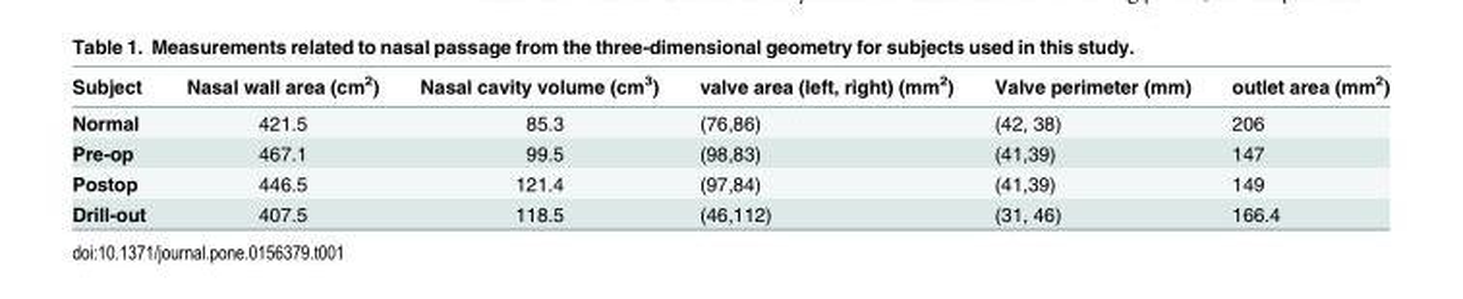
<table><thead><tr><td>Subject</td><td>Nasal wall area (cm<sup>2</sup>)</td><td>Nasal cavity volume (cm<sup>3</sup>)</td><td>valve area (left, right) (mm<sup>2</sup>)</td><td>Valve perimeter (mm)</td><td>outlet area (mm<sup>2</sup>)</td></tr></thead><tbody><tr><td>Normal</td><td>421.5</td><td>85.3</td><td>(76,86)</td><td>(42, 38)</td><td>206</td></tr><tr><td>Pre-op</td><td>467.1</td><td>99.5</td><td>(98,83)</td><td>(41,39)</td><td>147</td></tr><tr><td>Postop</td><td>446.5</td><td>121.4</td><td>(97,84)</td><td>(41,39)</td><td>149</td></tr><tr><td>Drill-out</td><td>407.5</td><td>118.5</td><td>(46,112)</td><td>(31, 46)</td><td>166.4</td></tr></tbody></table>